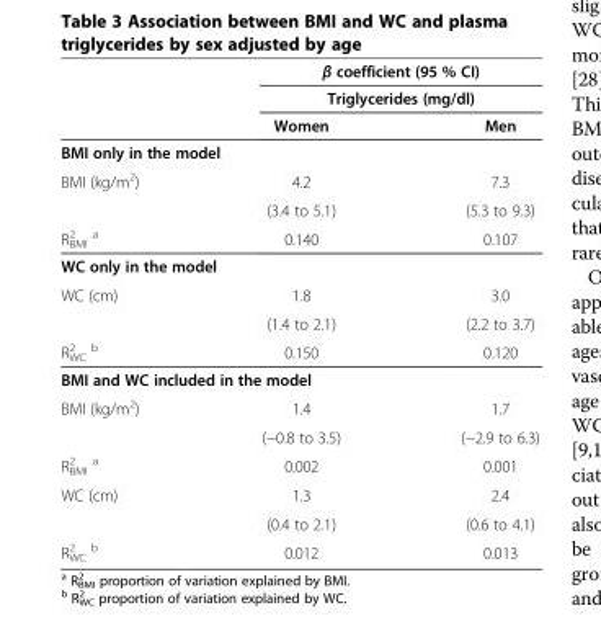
<table><thead><tr><td rowspan="3"></td><td rowspan="2" colspan="2">β coefficient (95 % CI) Triglycerides (mg/dl)</td></tr><tr></tr><tr><td>Women</td><td>Men</td></tr></thead><tbody><tr><td colspan="3">BMI only in the model</td></tr><tr><td rowspan="2">BMI (kg/m<sup>2</sup>)</td><td>4.2</td><td>7.3</td></tr><tr><td>(3.4 to 5.1)</td><td>(5.3 to 9.3)</td></tr><tr><td>R<sub>BMI</sub> <sup>2 a</sup></td><td>0.140</td><td>0.107</td></tr><tr><td colspan="3">WC only in the model</td></tr><tr><td rowspan="2">WC (cm)</td><td>1.8</td><td>3.0</td></tr><tr><td>(1.4 to 2.1)</td><td>(2.2 to 3.7)</td></tr><tr><td>R<sub>WC</sub> <sup>2 b</sup></td><td>0.150</td><td>0.120</td></tr><tr><td colspan="3">BMI and WC included in the model</td></tr><tr><td rowspan="2">BMI (kg/m<sup>2</sup>)</td><td>1.4</td><td>1.7</td></tr><tr><td>(−0.8 to 3.5)</td><td>(−2.9 to 6.3)</td></tr><tr><td>R<sub>BMI</sub> <sup>2 a</sup></td><td>0.002</td><td>0.001</td></tr><tr><td rowspan="2">WC (cm)</td><td>1.3</td><td>2.4</td></tr><tr><td>(0.4 to 2.1)</td><td>(0.6 to 4.1)</td></tr><tr><td>R<sub>WC</sub> <sup>2 b</sup></td><td>0.012</td><td>0.013</td></tr></tbody></table>